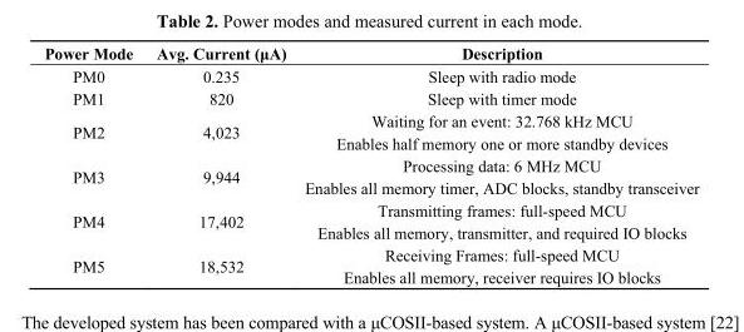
<table><thead><tr><td>Power Mode</td><td>Avg. Current (μA)</td><td>Description</td></tr></thead><tbody><tr><td>PM0</td><td>0.235</td><td>Sleep with radio mode</td></tr><tr><td>PM1</td><td>820</td><td>Sleep with timer mode</td></tr><tr><td>PM2</td><td>4,023</td><td>Waiting for an event: 32.768 kHz MCU Enables half memory one or more standby devices</td></tr><tr><td>PM3</td><td>9,944</td><td>Processing data: 6 MHz MCU Enables all memory timer, ADC blocks, standby transceiver</td></tr><tr><td>PM4</td><td>17,402</td><td>Transmitting frames: full-speed MCU Enables all memory, transmitter, and required IO blocks</td></tr><tr><td>PM5</td><td>18,532</td><td>Receiving Frames: full-speed MCU Enables all memory, receiver requires IO blocks</td></tr></tbody></table>